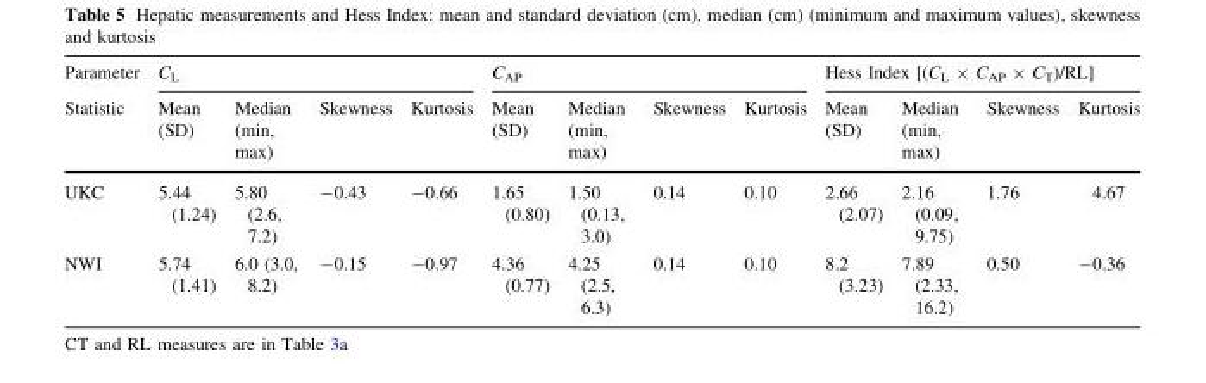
<table><thead><tr><td rowspan="2">Parameter Statistic</td><td colspan="4">C<sub>L</sub></td><td colspan="4">C<sub>AP</sub></td><td colspan="4">Hess Index [(C<sub>L</sub> × C<sub>AP</sub> × C<sub>T</sub>)/RL]</td></tr><tr><td>Mean (SD)</td><td>Median (min, max)</td><td>Skewness</td><td>Kurtosis</td><td>Mean (SD)</td><td>Median (min, max)</td><td>Skewness</td><td>Kurtosis</td><td>Mean (SD)</td><td>Median (min, max)</td><td>Skewness</td><td>Kurtosis</td></tr></thead><tbody><tr><td>UKC</td><td>5.44 (1.24)</td><td>5.80 (2.6, 7.2)</td><td>-0.43</td><td>-0.66</td><td>1.65 (0.80)</td><td>1.50 (0.13, 3.0)</td><td>0.14</td><td>0.10</td><td>2.66 (2.07)</td><td>2.16 (0.09, 9.75)</td><td>1.76</td><td>4.67</td></tr><tr><td>NWI</td><td>5.74 (1.41)</td><td>6.0 (3.0, 8.2)</td><td>-0.15</td><td>-0.97</td><td>4.36 (0.77)</td><td>4.25 (2.5, 6.3)</td><td>0.14</td><td>0.10</td><td>8.2 (3.23)</td><td>7.89 (2.33, 16.2)</td><td>0.50</td><td>-0.36</td></tr></tbody></table>